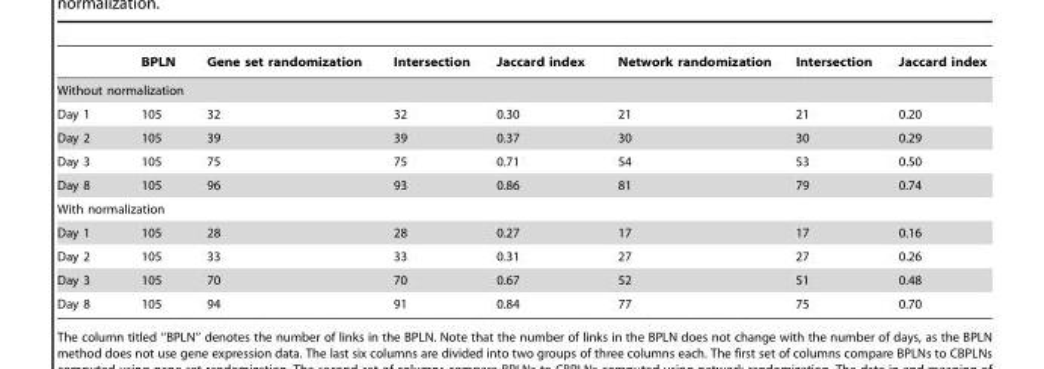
<table><thead><tr><td></td><td>BPLN</td><td>Gene set randomization</td><td>Intersection</td><td>Jaccard index</td><td>Network randomization</td><td>Intersection</td><td>Jaccard index</td></tr></thead><tbody><tr><td colspan="8">Without normalization</td></tr><tr><td>Day 1</td><td>105</td><td>32</td><td>32</td><td>0.30</td><td>21</td><td>21</td><td>0.20</td></tr><tr><td>Day 2</td><td>105</td><td>39</td><td>39</td><td>0.37</td><td>30</td><td>30</td><td>0.29</td></tr><tr><td>Day 3</td><td>105</td><td>75</td><td>75</td><td>0.71</td><td>54</td><td>53</td><td>0.50</td></tr><tr><td>Day 8</td><td>105</td><td>96</td><td>93</td><td>0.86</td><td>81</td><td>79</td><td>0.74</td></tr><tr><td colspan="8">With normalization</td></tr><tr><td>Day 1</td><td>105</td><td>28</td><td>28</td><td>0.27</td><td>17</td><td>17</td><td>0.16</td></tr><tr><td>Day 2</td><td>105</td><td>33</td><td>33</td><td>0.31</td><td>27</td><td>27</td><td>0.26</td></tr><tr><td>Day 3</td><td>105</td><td>70</td><td>70</td><td>0.67</td><td>52</td><td>51</td><td>0.48</td></tr><tr><td>Day 8</td><td>105</td><td>94</td><td>91</td><td>0.84</td><td>77</td><td>75</td><td>0.70</td></tr></tbody></table>